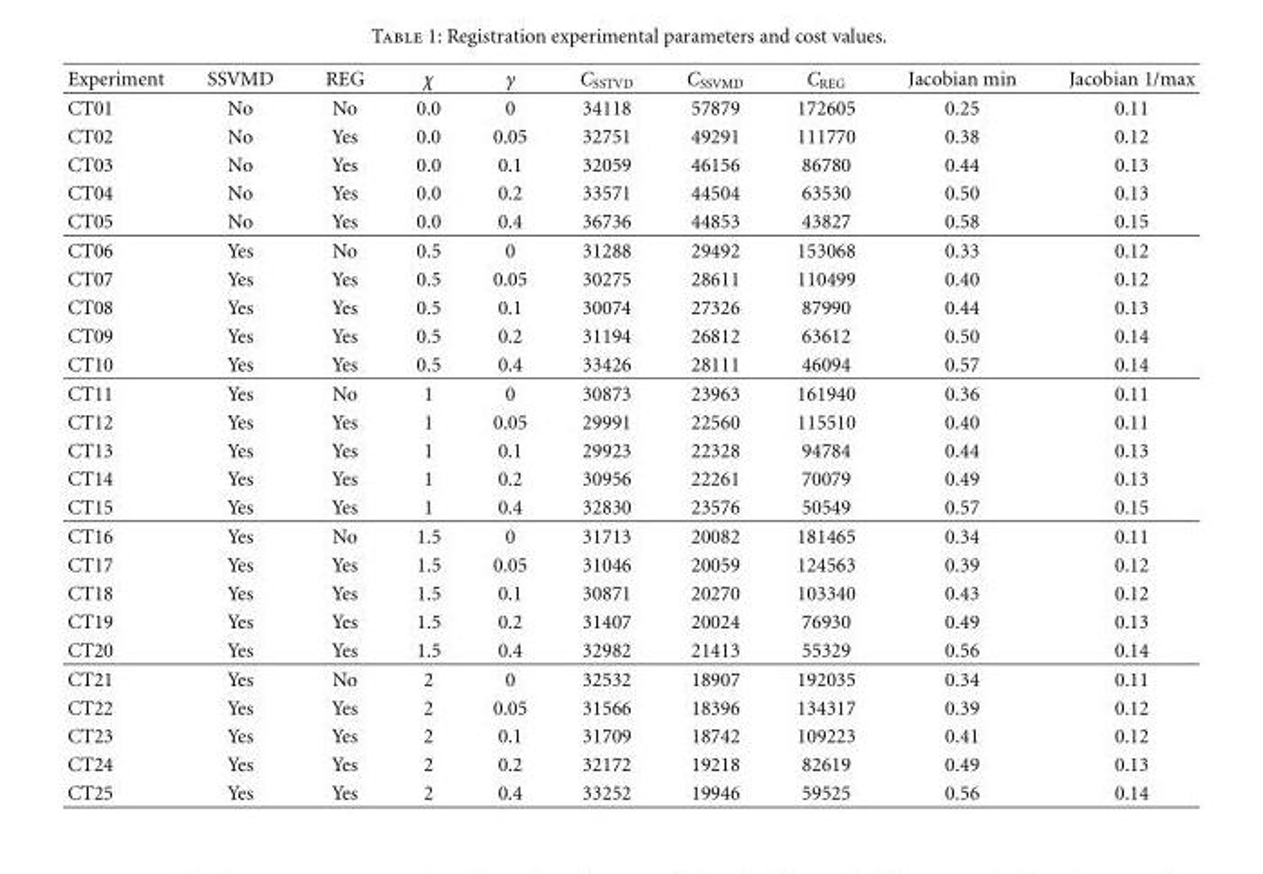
<table><thead><tr><td>Experiment</td><td>SSVMD</td><td>REG</td><td>χ</td><td>γ</td><td>C<sub>SSTVD</sub></td><td>C<sub>SSVMD</sub></td><td>C<sub>REG</sub></td><td>Jacobian min</td><td>Jacobian 1/max</td></tr></thead><tbody><tr><td>CT01</td><td>No</td><td>No</td><td>0.0</td><td>0</td><td>34118</td><td>57879</td><td>172605</td><td>0.25</td><td>0.11</td></tr><tr><td>CT02</td><td>No</td><td>Yes</td><td>0.0</td><td>0.05</td><td>32751</td><td>49291</td><td>111770</td><td>0.38</td><td>0.12</td></tr><tr><td>CT03</td><td>No</td><td>Yes</td><td>0.0</td><td>0.1</td><td>32059</td><td>46156</td><td>86780</td><td>0.44</td><td>0.13</td></tr><tr><td>CT04</td><td>No</td><td>Yes</td><td>0.0</td><td>0.2</td><td>33571</td><td>44504</td><td>63530</td><td>0.50</td><td>0.13</td></tr><tr><td>CT05</td><td>No</td><td>Yes</td><td>0.0</td><td>0.4</td><td>36736</td><td>44853</td><td>43827</td><td>0.58</td><td>0.15</td></tr><tr><td>CT06</td><td>Yes</td><td>No</td><td>0.5</td><td>0</td><td>31288</td><td>29492</td><td>153068</td><td>0.33</td><td>0.12</td></tr><tr><td>CT07</td><td>Yes</td><td>Yes</td><td>0.5</td><td>0.05</td><td>30275</td><td>28611</td><td>110499</td><td>0.40</td><td>0.12</td></tr><tr><td>CT08</td><td>Yes</td><td>Yes</td><td>0.5</td><td>0.1</td><td>30074</td><td>27326</td><td>87990</td><td>0.44</td><td>0.13</td></tr><tr><td>CT09</td><td>Yes</td><td>Yes</td><td>0.5</td><td>0.2</td><td>31194</td><td>26812</td><td>63612</td><td>0.50</td><td>0.14</td></tr><tr><td>CT10</td><td>Yes</td><td>Yes</td><td>0.5</td><td>0.4</td><td>33426</td><td>28111</td><td>46094</td><td>0.57</td><td>0.14</td></tr><tr><td>CT11</td><td>Yes</td><td>No</td><td>1</td><td>0</td><td>30873</td><td>23963</td><td>161940</td><td>0.36</td><td>0.11</td></tr><tr><td>CT12</td><td>Yes</td><td>Yes</td><td>1</td><td>0.05</td><td>29991</td><td>22560</td><td>115510</td><td>0.40</td><td>0.11</td></tr><tr><td>CT13</td><td>Yes</td><td>Yes</td><td>1</td><td>0.1</td><td>29923</td><td>22328</td><td>94784</td><td>0.44</td><td>0.13</td></tr><tr><td>CT14</td><td>Yes</td><td>Yes</td><td>1</td><td>0.2</td><td>30956</td><td>22261</td><td>70079</td><td>0.49</td><td>0.13</td></tr><tr><td>CT15</td><td>Yes</td><td>Yes</td><td>1</td><td>0.4</td><td>32830</td><td>23576</td><td>50549</td><td>0.57</td><td>0.15</td></tr><tr><td>CT16</td><td>Yes</td><td>No</td><td>1.5</td><td>0</td><td>31713</td><td>20082</td><td>181465</td><td>0.34</td><td>0.11</td></tr><tr><td>CT17</td><td>Yes</td><td>Yes</td><td>1.5</td><td>0.05</td><td>31046</td><td>20059</td><td>124563</td><td>0.39</td><td>0.12</td></tr><tr><td>CT18</td><td>Yes</td><td>Yes</td><td>1.5</td><td>0.1</td><td>30871</td><td>20270</td><td>103340</td><td>0.43</td><td>0.12</td></tr><tr><td>CT19</td><td>Yes</td><td>Yes</td><td>1.5</td><td>0.2</td><td>31407</td><td>20024</td><td>76930</td><td>0.49</td><td>0.13</td></tr><tr><td>CT20</td><td>Yes</td><td>Yes</td><td>1.5</td><td>0.4</td><td>32982</td><td>21413</td><td>55329</td><td>0.56</td><td>0.14</td></tr><tr><td>CT21</td><td>Yes</td><td>No</td><td>2</td><td>0</td><td>32532</td><td>18907</td><td>192035</td><td>0.34</td><td>0.11</td></tr><tr><td>CT22</td><td>Yes</td><td>Yes</td><td>2</td><td>0.05</td><td>31566</td><td>18396</td><td>134317</td><td>0.39</td><td>0.12</td></tr><tr><td>CT23</td><td>Yes</td><td>Yes</td><td>2</td><td>0.1</td><td>31709</td><td>18742</td><td>109223</td><td>0.41</td><td>0.12</td></tr><tr><td>CT24</td><td>Yes</td><td>Yes</td><td>2</td><td>0.2</td><td>32172</td><td>19218</td><td>82619</td><td>0.49</td><td>0.13</td></tr><tr><td>CT25</td><td>Yes</td><td>Yes</td><td>2</td><td>0.4</td><td>33252</td><td>19946</td><td>59525</td><td>0.56</td><td>0.14</td></tr></tbody></table>